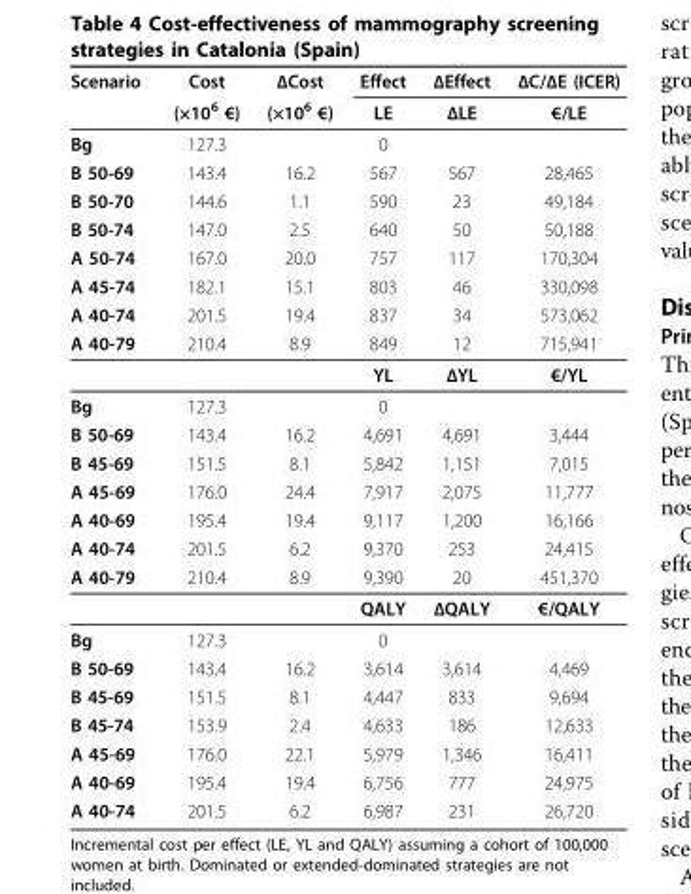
<table><thead><tr><td rowspan="2">Scenario</td><td rowspan="2">Cost (×10<sup>6</sup> €)</td><td rowspan="2">ΔCost (×10<sup>6</sup> €)</td><td rowspan="2">Effect LE</td><td rowspan="2">ΔEffect ΔLE</td><td rowspan="2">ΔC/ΔE (ICER) €/LE</td></tr><tr></tr></thead><tbody><tr><td>Bg</td><td>127.3</td><td></td><td>0</td><td></td><td></td></tr><tr><td>B 50-69</td><td>143.4</td><td>16.2</td><td>567</td><td>567</td><td>28,465</td></tr><tr><td>B 50-70</td><td>144.6</td><td>1.1</td><td>590</td><td>23</td><td>49,184</td></tr><tr><td>B 50-74</td><td>147.0</td><td>2.5</td><td>640</td><td>50</td><td>50,188</td></tr><tr><td>A 50-74</td><td>167.0</td><td>20.0</td><td>757</td><td>117</td><td>170,304</td></tr><tr><td>A 45-74</td><td>182.1</td><td>15.1</td><td>803</td><td>46</td><td>330,098</td></tr><tr><td>A 40-74</td><td>201.5</td><td>19.4</td><td>837</td><td>34</td><td>573,062</td></tr><tr><td rowspan="2">A 40-79</td><td>210.4</td><td>8.9</td><td>849</td><td>12</td><td>715,941</td></tr><tr><td></td><td></td><td>YL</td><td>ΔYL</td><td>€/YL</td></tr><tr><td>Bg</td><td>127.3</td><td></td><td>0</td><td></td><td></td></tr><tr><td>B 50-69</td><td>143.4</td><td>16.2</td><td>4,691</td><td>4,691</td><td>3,444</td></tr><tr><td>B 45-69</td><td>151.5</td><td>8.1</td><td>5,842</td><td>1,151</td><td>7,015</td></tr><tr><td>A 45-69</td><td>176.0</td><td>24.4</td><td>7,917</td><td>2,075</td><td>11,777</td></tr><tr><td>A 40-69</td><td>195.4</td><td>19.4</td><td>9,117</td><td>1,200</td><td>16,166</td></tr><tr><td>A 40-74</td><td>201.5</td><td>6.2</td><td>9,370</td><td>253</td><td>24,415</td></tr><tr><td rowspan="2">A 40-79</td><td>210.4</td><td>8.9</td><td>9,390</td><td>20</td><td>451,370</td></tr><tr><td></td><td></td><td>QALY</td><td>ΔQALY</td><td>€/QALY</td></tr><tr><td>Bg</td><td>127.3</td><td></td><td>0</td><td></td><td></td></tr><tr><td>B 50-69</td><td>143.4</td><td>16.2</td><td>3,614</td><td>3,614</td><td>4,469</td></tr><tr><td>B 45-69</td><td>151.5</td><td>8.1</td><td>4,447</td><td>833</td><td>9,694</td></tr><tr><td>B 45-74</td><td>153.9</td><td>2.4</td><td>4,633</td><td>186</td><td>12,633</td></tr><tr><td>A 45-69</td><td>176.0</td><td>22.1</td><td>5,979</td><td>1,346</td><td>16,411</td></tr><tr><td>A 40-69</td><td>195.4</td><td>19.4</td><td>6,756</td><td>777</td><td>24,975</td></tr><tr><td>A 40-74</td><td>201.5</td><td>6.2</td><td>6,987</td><td>231</td><td>26,720</td></tr></tbody></table>